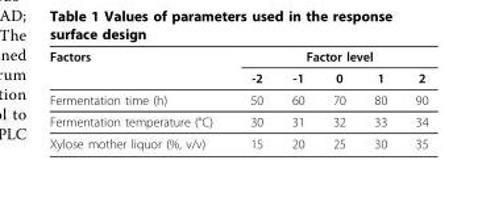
<table><thead><tr><td rowspan="2">Factors</td><td colspan="5">Factor level</td></tr><tr><td>-2</td><td>-1</td><td>0</td><td>1</td><td>2</td></tr></thead><tbody><tr><td>Fermentation time (h)</td><td>50</td><td>60</td><td>70</td><td>80</td><td>90</td></tr><tr><td>Fermentation temperature (°C)</td><td>30</td><td>31</td><td>32</td><td>33</td><td>34</td></tr><tr><td>Xylose mother liquor (%, v/v)</td><td>15</td><td>20</td><td>25</td><td>30</td><td>35</td></tr></tbody></table>